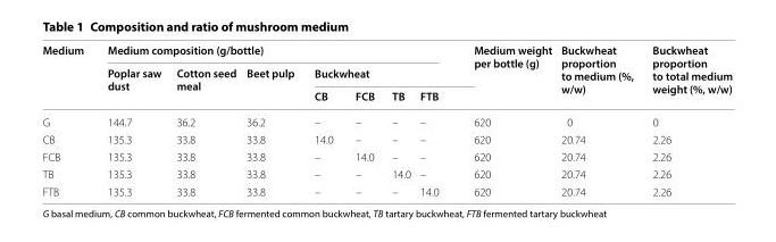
<table><thead><tr><td rowspan="3">Medium</td><td colspan="7">Medium composition (g/bottle)</td><td rowspan="3">Medium weight per bottle (g)</td><td rowspan="3">Buckwheat proportion to medium (%, w/w)</td><td rowspan="3">Buckwheat proportion to total medium weight (%, w/w)</td></tr><tr><td rowspan="2">Poplar saw dust</td><td rowspan="2">Cotton seed meal</td><td rowspan="2">Beet pulp</td><td colspan="4">Buckwheat</td></tr><tr><td>CB</td><td>FCB</td><td>TB</td><td>FTB</td></tr></thead><tbody><tr><td>G</td><td>144.7</td><td>36.2</td><td>36.2</td><td>–</td><td>–</td><td>–</td><td>–</td><td>620</td><td>0</td><td>0</td></tr><tr><td>CB</td><td>135.3</td><td>33.8</td><td>33.8</td><td>14.0</td><td>–</td><td>–</td><td>–</td><td>620</td><td>20.74</td><td>2.26</td></tr><tr><td>FCB</td><td>135.3</td><td>33.8</td><td>33.8</td><td>–</td><td>14.0</td><td>–</td><td>–</td><td>620</td><td>20.74</td><td>2.26</td></tr><tr><td>TB</td><td>135.3</td><td>33.8</td><td>33.8</td><td>–</td><td>–</td><td>14.0</td><td>–</td><td>620</td><td>20.74</td><td>2.26</td></tr><tr><td>FTB</td><td>135.3</td><td>33.8</td><td>33.8</td><td>–</td><td>–</td><td>–</td><td>14.0</td><td>620</td><td>20.74</td><td>2.26</td></tr></tbody></table>